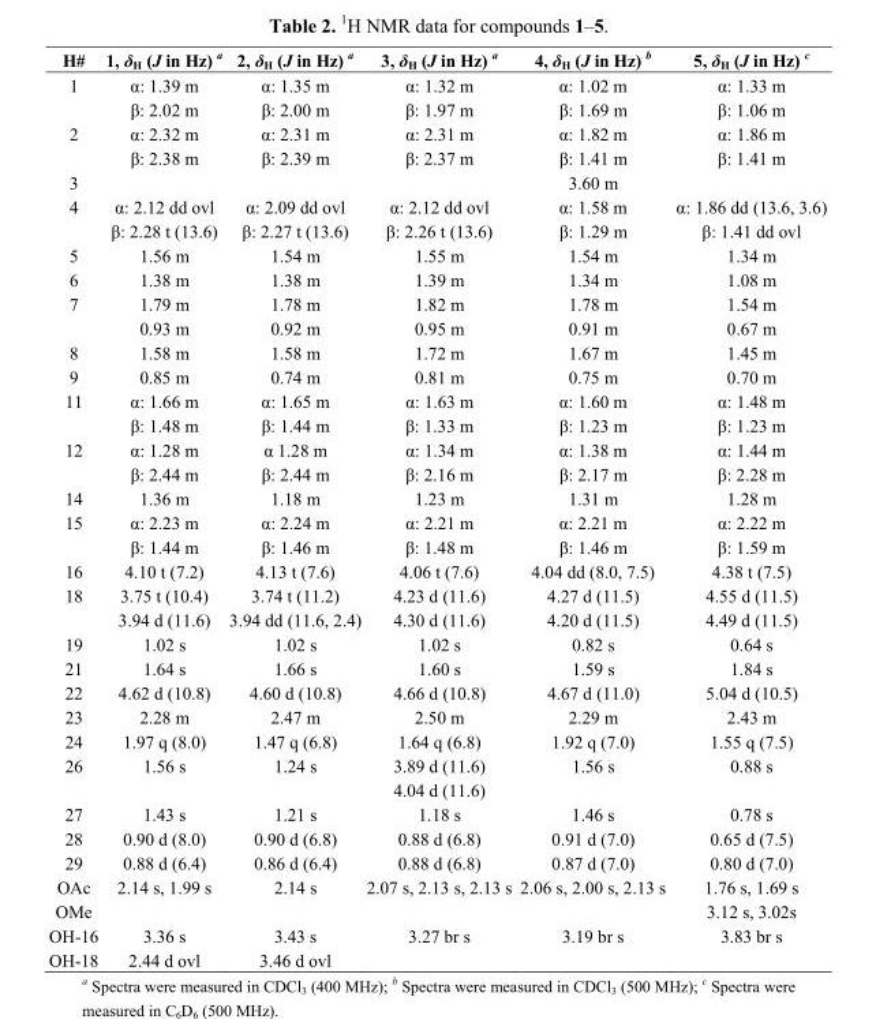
<table><thead><tr><td>H#</td><td>1, δ<sub>H</sub> (J in Hz) a</td><td>2, δ<sub>H</sub> (J in Hz) a</td><td>3, δ<sub>H</sub> (J in Hz) a</td><td>4, δ<sub>H</sub> (J in Hz) b</td><td>5, δ<sub>H</sub> (J in Hz) c</td></tr></thead><tbody><tr><td rowspan="2">1</td><td>α: 1.39 m</td><td>α: 1.35 m</td><td>α: 1.32 m</td><td>α: 1.02 m</td><td>α: 1.33 m</td></tr><tr><td>β: 2.02 m</td><td>β: 2.00 m</td><td>β: 1.97 m</td><td>β: 1.69 m</td><td>β: 1.06 m</td></tr><tr><td rowspan="2">2</td><td>α: 2.32 m</td><td>α: 2.31 m</td><td>α: 2.31 m</td><td>α: 1.82 m</td><td>α: 1.86 m</td></tr><tr><td>β: 2.38 m</td><td>β: 2.39 m</td><td>β: 2.37 m</td><td>β: 1.41 m</td><td>β: 1.41 m</td></tr><tr><td>3</td><td></td><td></td><td></td><td>3.60 m</td><td></td></tr><tr><td rowspan="2">4</td><td>α: 2.12 dd ovl</td><td>α: 2.09 dd ovl</td><td>α: 2.12 dd ovl</td><td>α: 1.58 m</td><td>α: 1.86 dd (13.6, 3.6)</td></tr><tr><td>β: 2.28 t (13.6)</td><td>β: 2.27 t (13.6)</td><td>β: 2.26 t (13.6)</td><td>β: 1.29 m</td><td>β: 1.41 dd ovl</td></tr><tr><td>5</td><td>1.56 m</td><td>1.54 m</td><td>1.55 m</td><td>1.54 m</td><td>1.34 m</td></tr><tr><td>6</td><td>1.38 m</td><td>1.38 m</td><td>1.39 m</td><td>1.34 m</td><td>1.08 m</td></tr><tr><td rowspan="2">7</td><td>1.79 m</td><td>1.78 m</td><td>1.82 m</td><td>1.78 m</td><td>1.54 m</td></tr><tr><td>0.93 m</td><td>0.92 m</td><td>0.95 m</td><td>0.91 m</td><td>0.67 m</td></tr><tr><td>8</td><td>1.58 m</td><td>1.58 m</td><td>1.72 m</td><td>1.67 m</td><td>1.45 m</td></tr><tr><td>9</td><td>0.85 m</td><td>0.74 m</td><td>0.81 m</td><td>0.75 m</td><td>0.70 m</td></tr><tr><td rowspan="2">11</td><td>α: 1.66 m</td><td>α: 1.65 m</td><td>α: 1.63 m</td><td>α: 1.60 m</td><td>α: 1.48 m</td></tr><tr><td>β: 1.48 m</td><td>β: 1.44 m</td><td>β: 1.33 m</td><td>β: 1.23 m</td><td>β: 1.23 m</td></tr><tr><td rowspan="2">12</td><td>α: 1.28 m</td><td>α 1.28 m</td><td>α: 1.34 m</td><td>α: 1.38 m</td><td>α: 1.44 m</td></tr><tr><td>β: 2.44 m</td><td>β: 2.44 m</td><td>β: 2.16 m</td><td>β: 2.17 m</td><td>β: 2.28 m</td></tr><tr><td>14</td><td>1.36 m</td><td>1.18 m</td><td>1.23 m</td><td>1.31 m</td><td>1.28 m</td></tr><tr><td rowspan="2">15</td><td>α: 2.23 m</td><td>α: 2.24 m</td><td>α: 2.21 m</td><td>α: 2.21 m</td><td>α: 2.22 m</td></tr><tr><td>β: 1.44 m</td><td>β: 1.46 m</td><td>β: 1.48 m</td><td>β: 1.46 m</td><td>β: 1.59 m</td></tr><tr><td>16</td><td>4.10 t (7.2)</td><td>4.13 t (7.6)</td><td>4.06 t (7.6)</td><td>4.04 dd (8.0, 7.5)</td><td>4.38 t (7.5)</td></tr><tr><td rowspan="2">18</td><td>3.75 t (10.4)</td><td>3.74 t (11.2)</td><td>4.23 d (11.6)</td><td>4.27 d (11.5)</td><td>4.55 d (11.5)</td></tr><tr><td>3.94 d (11.6)</td><td>3.94 dd (11.6, 2.4)</td><td>4.30 d (11.6)</td><td>4.20 d (11.5)</td><td>4.49 d (11.5)</td></tr><tr><td>19</td><td>1.02 s</td><td>1.02 s</td><td>1.02 s</td><td>0.82 s</td><td>0.64 s</td></tr><tr><td>21</td><td>1.64 s</td><td>1.66 s</td><td>1.60 s</td><td>1.59 s</td><td>1.84 s</td></tr><tr><td>22</td><td>4.62 d (10.8)</td><td>4.60 d (10.8)</td><td>4.66 d (10.8)</td><td>4.67 d (11.0)</td><td>5.04 d (10.5)</td></tr><tr><td>23</td><td>2.28 m</td><td>2.47 m</td><td>2.50 m</td><td>2.29 m</td><td>2.43 m</td></tr><tr><td>24</td><td>1.97 q (8.0)</td><td>1.47 q (6.8)</td><td>1.64 q (6.8)</td><td>1.92 q (7.0)</td><td>1.55 q (7.5)</td></tr><tr><td rowspan="2">26</td><td>1.56 s</td><td>1.24 s</td><td>3.89 d (11.6)</td><td>1.56 s</td><td>0.88 s</td></tr><tr><td></td><td></td><td>4.04 d (11.6)</td><td></td><td></td></tr><tr><td>27</td><td>1.43 s</td><td>1.21 s</td><td>1.18 s</td><td>1.46 s</td><td>0.78 s</td></tr><tr><td>28</td><td>0.90 d (8.0)</td><td>0.90 d (6.8)</td><td>0.88 d (6.8)</td><td>0.91 d (7.0)</td><td>0.65 d (7.5)</td></tr><tr><td>29</td><td>0.88 d (6.4)</td><td>0.86 d (6.4)</td><td>0.88 d (6.8)</td><td>0.87 d (7.0)</td><td>0.80 d (7.0)</td></tr><tr><td>OAc</td><td>2.14 s, 1.99 s</td><td>2.14 s</td><td>2.07 s, 2.13 s, 2.13 s</td><td>2.06 s, 2.00 s, 2.13 s</td><td>1.76 s, 1.69 s</td></tr><tr><td>OMe</td><td></td><td></td><td></td><td></td><td>3.12 s, 3.02s</td></tr><tr><td>OH-16</td><td>3.36 s</td><td>3.43 s</td><td>3.27 br s</td><td>3.19 br s</td><td>3.83 br s</td></tr><tr><td>OH-18</td><td>2.44 d ovl</td><td>3.46 d ovl</td><td></td><td></td><td></td></tr></tbody></table>